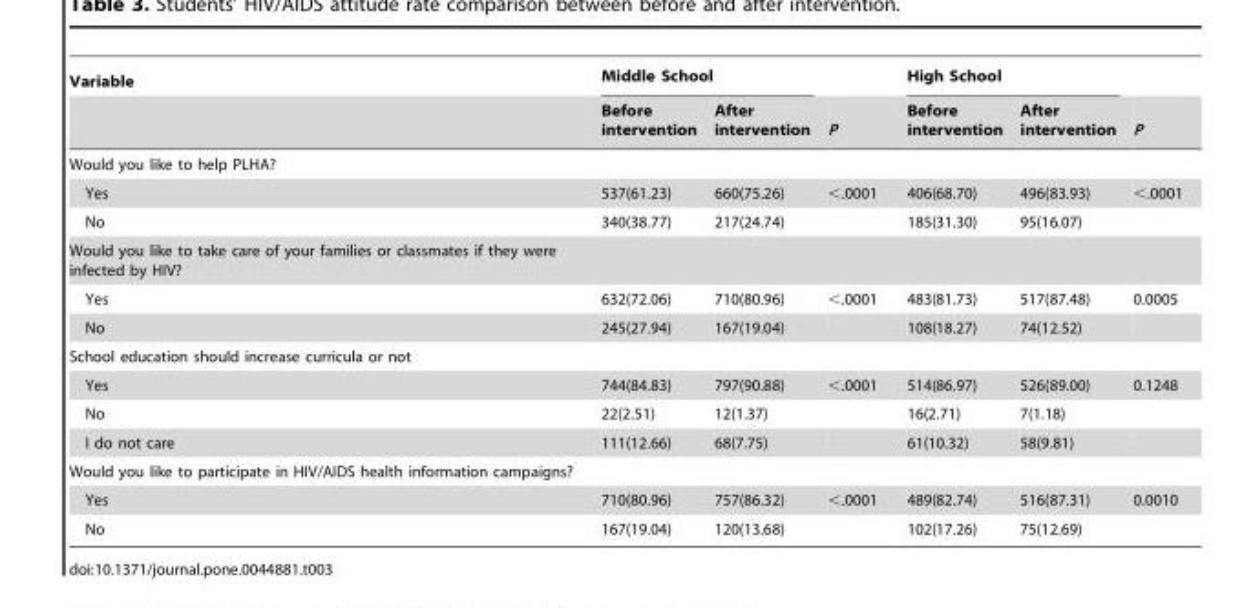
<table><thead><tr><td rowspan="2">Variable</td><td colspan="2">Middle School</td><td rowspan="2">P</td><td colspan="2">High School</td><td rowspan="2">P</td></tr><tr><td>Before intervention</td><td>After intervention</td><td>Before intervention</td><td>After intervention</td></tr></thead><tbody><tr><td colspan="7">Would you like to help PLHA?</td></tr><tr><td>Yes</td><td>537(61.23)</td><td>660(75.26)</td><td>&lt;.0001</td><td>406(68.70)</td><td>496(83.93)</td><td>&lt;.0001</td></tr><tr><td>No</td><td>340(38.77)</td><td>217(24.74)</td><td></td><td>185(31.30)</td><td>95(16.07)</td><td></td></tr><tr><td colspan="7">Would you like to take care of your families or classmates if they were infected by HIV?</td></tr><tr><td>Yes</td><td>632(72.06)</td><td>710(80.96)</td><td>&lt;.0001</td><td>483(81.73)</td><td>517(87.48)</td><td>0.0005</td></tr><tr><td>No</td><td>245(27.94)</td><td>167(19.04)</td><td></td><td>108(18.27)</td><td>74(12.52)</td><td></td></tr><tr><td colspan="7">School education should increase curricula or not</td></tr><tr><td>Yes</td><td>744(84.83)</td><td>797(90.88)</td><td>&lt;.0001</td><td>514(86.97)</td><td>526(89.00)</td><td>0.1248</td></tr><tr><td>No</td><td>22(2.51)</td><td>12(1.37)</td><td></td><td>16(2.71)</td><td>7(1.18)</td><td></td></tr><tr><td>I do not care</td><td>111(12.66)</td><td>68(7.75)</td><td></td><td>61(10.32)</td><td>58(9.81)</td><td></td></tr><tr><td colspan="7">Would you like to participate in HIV/AIDS health information campaigns?</td></tr><tr><td>Yes</td><td>710(80.96)</td><td>757(86.32)</td><td>&lt;.0001</td><td>489(82.74)</td><td>516(87.31)</td><td>0.0010</td></tr><tr><td>No</td><td>167(19.04)</td><td>120(13.68)</td><td></td><td>102(17.26)</td><td>75(12.69)</td><td></td></tr></tbody></table>